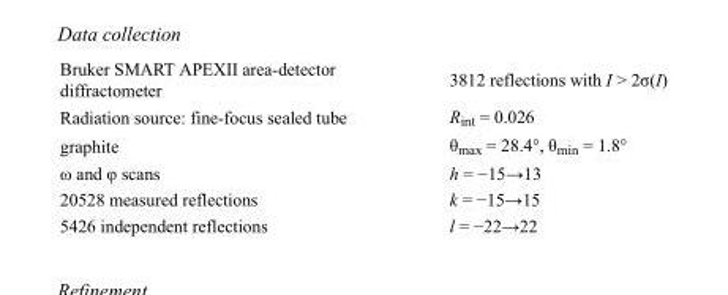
<table><tbody><tr><td>Bruker SMART APEXII area-detector diffractometer</td><td>3812 reflections with I &gt; 2σ(I)</td></tr><tr><td>Radiation source: fine-focus sealed tube</td><td>R<sub>int</sub> = 0.026</td></tr><tr><td>graphite</td><td>θ<sub>max</sub> = 28.4°, θ<sub>min</sub> = 1.8°</td></tr><tr><td>ω and φ scans</td><td>h = −15→13</td></tr><tr><td>20528 measured reflections</td><td>k = −15→15</td></tr><tr><td>5426 independent reflections</td><td>l = −22→22</td></tr></tbody></table>